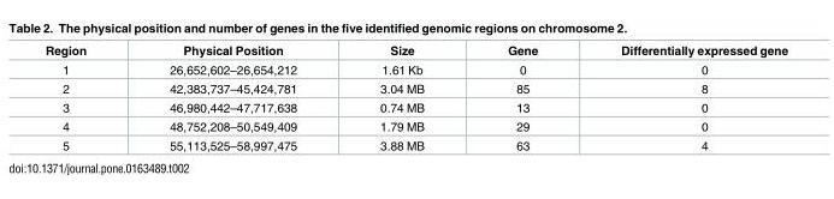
<table><thead><tr><td>Region</td><td>Physical Position</td><td>Size</td><td>Gene</td><td>Differentially expressed gene</td></tr></thead><tbody><tr><td>1</td><td>26,652,602–26,654,212</td><td>1.61 Kb</td><td>0</td><td>0</td></tr><tr><td>2</td><td>42,383,737–45,424,781</td><td>3.04 MB</td><td>85</td><td>8</td></tr><tr><td>3</td><td>46,980,442–47,717,638</td><td>0.74 MB</td><td>13</td><td>0</td></tr><tr><td>4</td><td>48,752,208–50,549,409</td><td>1.79 MB</td><td>29</td><td>0</td></tr><tr><td>5</td><td>55,113,525–58,997,475</td><td>3.88 MB</td><td>63</td><td>4</td></tr></tbody></table>